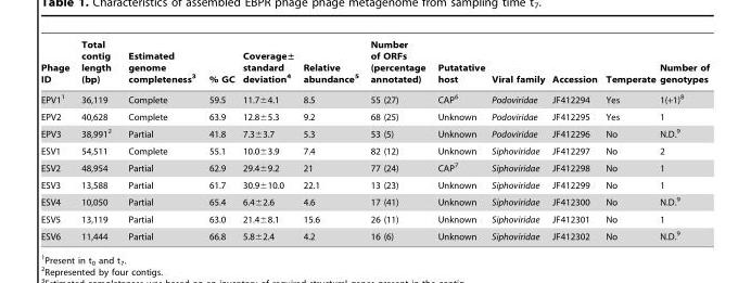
<table><thead><tr><td>Phage ID</td><td>Total contig length (bp)</td><td>Estimated genome completeness<sup>3</sup></td><td>% GC</td><td>Coverage± standard deviation<sup>4</sup></td><td>Relative abundance<sup>5</sup></td><td>Number of ORFs (percentage annotated)</td><td>Putatative host</td><td>Viral family</td><td>Accession</td><td>Temperate</td><td>Number of genotypes</td></tr></thead><tbody><tr><td>EPV1<sup>1</sup></td><td>36,119</td><td>Complete</td><td>59.5</td><td>11.7±4.1</td><td>8.5</td><td>55 (27)</td><td>CAP<sup>6</sup></td><td>Podoviridae</td><td>JF412294</td><td>Yes</td><td>1(+1)<sup>8</sup></td></tr><tr><td>EPV2</td><td>40,628</td><td>Complete</td><td>63.9</td><td>12.8±5.3</td><td>9.2</td><td>68 (25)</td><td>Unknown</td><td>Podoviridae</td><td>JF412295</td><td>Yes</td><td>1</td></tr><tr><td>EPV3</td><td>38,991<sup>2</sup></td><td>Partial</td><td>41.8</td><td>7.3±3.7</td><td>5.3</td><td>53 (5)</td><td>Unknown</td><td>Podoviridae</td><td>JF412296</td><td>No</td><td>N.D.<sup>9</sup></td></tr><tr><td>ESV1</td><td>54,511</td><td>Complete</td><td>55.1</td><td>10.0±3.9</td><td>7.4</td><td>82 (12)</td><td>Unknown</td><td>Siphoviridae</td><td>JF412297</td><td>No</td><td>2</td></tr><tr><td>ESV2</td><td>48,954</td><td>Partial</td><td>62.9</td><td>29.4±9.2</td><td>21</td><td>77 (24)</td><td>CAP<sup>7</sup></td><td>Siphoviridae</td><td>JF412298</td><td>No</td><td>1</td></tr><tr><td>ESV3</td><td>13,588</td><td>Partial</td><td>61.7</td><td>30.9±10.0</td><td>22.1</td><td>13 (23)</td><td>Unknown</td><td>Siphoviridae</td><td>JF412299</td><td>No</td><td>1</td></tr><tr><td>ESV4</td><td>10,050</td><td>Partial</td><td>65.4</td><td>6.4±2.6</td><td>4.6</td><td>17 (41)</td><td>Unknown</td><td>Siphoviridae</td><td>JF412300</td><td>No</td><td>N.D.<sup>9</sup></td></tr><tr><td>ESV5</td><td>13,119</td><td>Partial</td><td>63.0</td><td>21.4±8.1</td><td>15.6</td><td>26 (11)</td><td>Unknown</td><td>Siphoviridae</td><td>JF412301</td><td>No</td><td>1</td></tr><tr><td>ESV6</td><td>11,444</td><td>Partial</td><td>66.8</td><td>5.8±2.4</td><td>4.2</td><td>16 (6)</td><td>Unknown</td><td>Siphoviridae</td><td>JF412302</td><td>No</td><td>N.D.<sup>9</sup></td></tr></tbody></table>